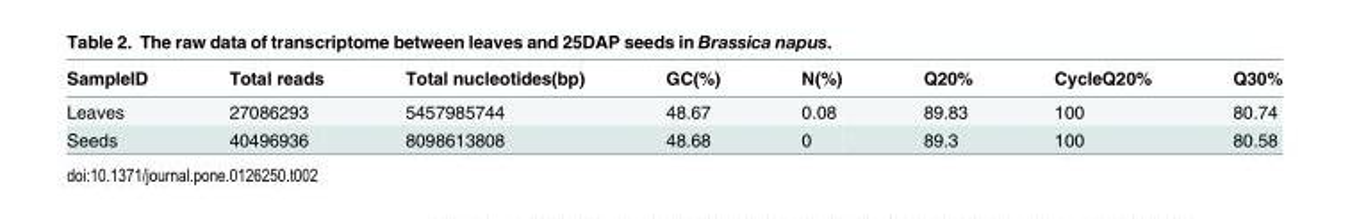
<table><thead><tr><td>SampleID</td><td>Total reads</td><td>Total nucleotides(bp)</td><td>GC(%)</td><td>N(%)</td><td>Q20%</td><td>CycleQ20%</td><td>Q30%</td></tr></thead><tbody><tr><td>Leaves</td><td>27086293</td><td>5457985744</td><td>48.67</td><td>0.08</td><td>89.83</td><td>100</td><td>80.74</td></tr><tr><td>Seeds</td><td>40496936</td><td>8098613808</td><td>48.68</td><td>0</td><td>89.3</td><td>100</td><td>80.58</td></tr></tbody></table>